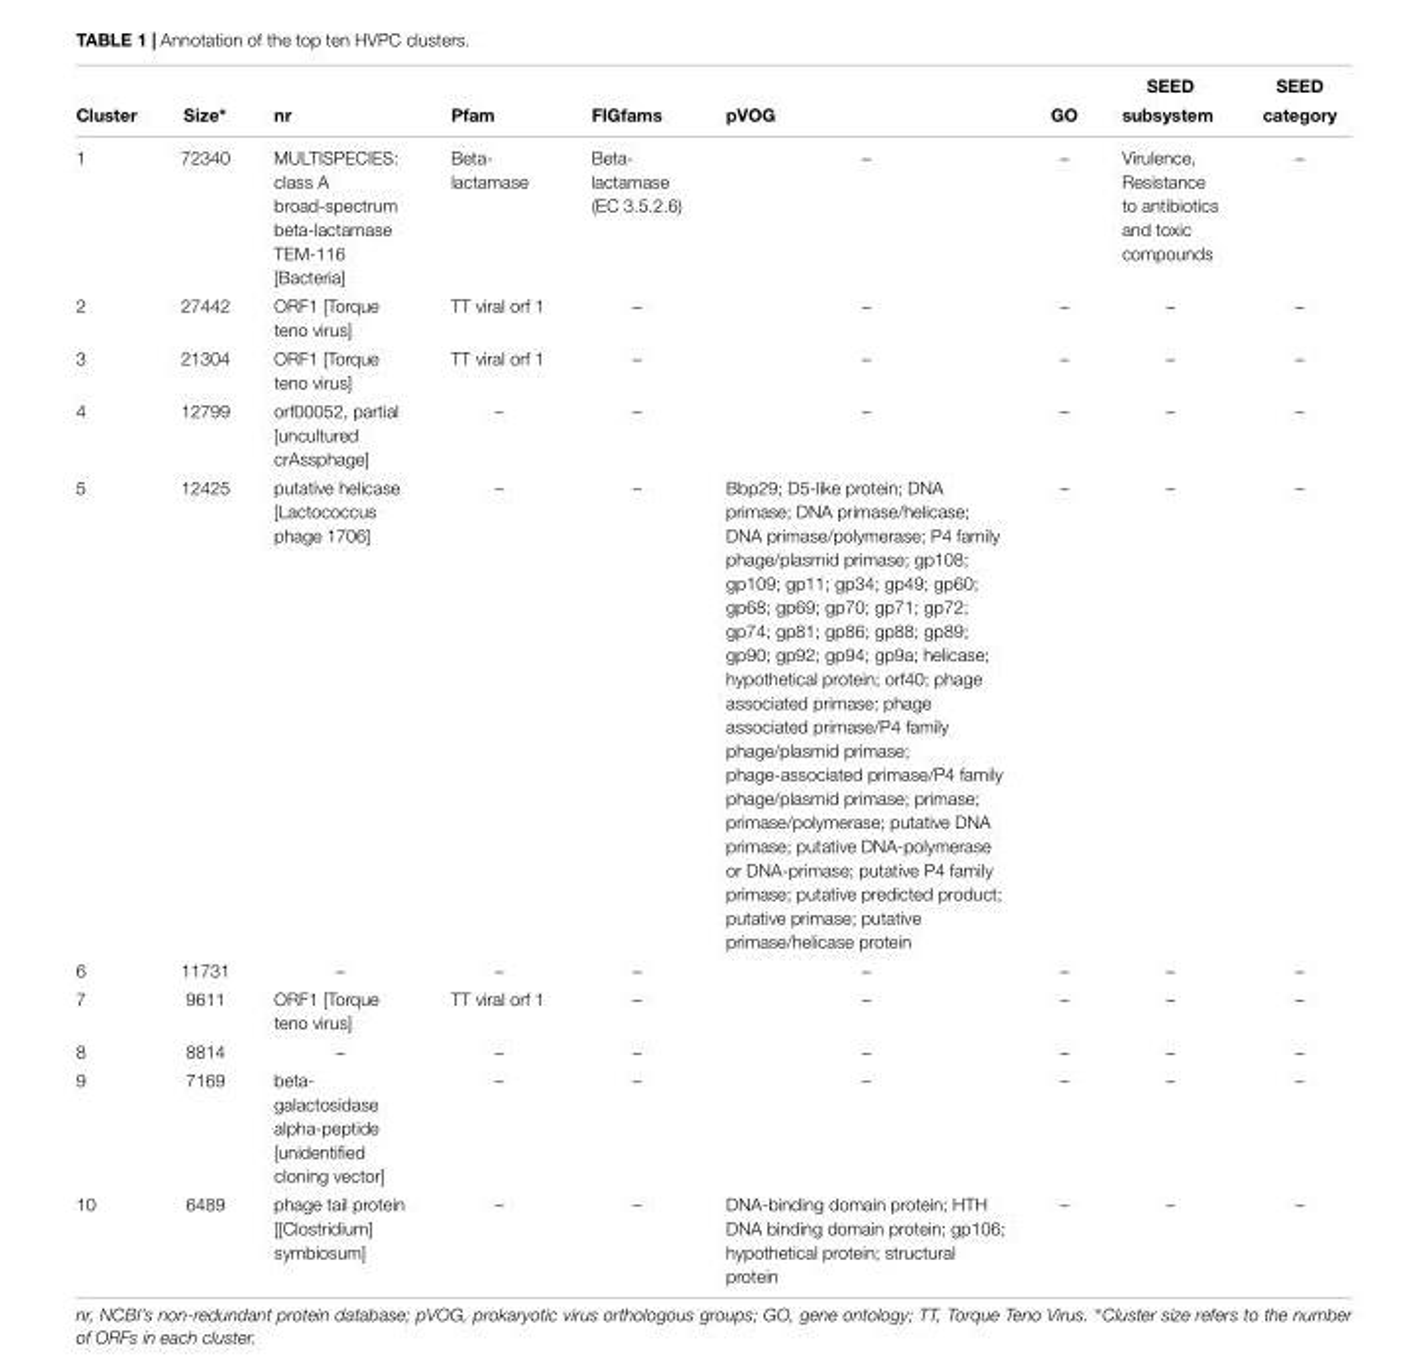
<table><thead><tr><td rowspan="2">Cluster</td><td rowspan="2">Size∗</td><td rowspan="2">nr</td><td rowspan="2">Pfam</td><td rowspan="2">FIGfams</td><td rowspan="2">pVOG</td><td rowspan="2">GO</td><td rowspan="2">SEED subsystem</td><td rowspan="2">SEED category</td></tr><tr></tr></thead><tbody><tr><td>1</td><td>72340</td><td>MULTISPECIES: class A broad-spectrum beta-lactamase TEM-116 [Bacteria]</td><td>Beta- lactamase</td><td>Beta- lactamase (EC 3.5.2.6)</td><td>–</td><td>–</td><td>Virulence, Resistance to antibiotics and toxic compounds</td><td>–</td></tr><tr><td>2</td><td>27442</td><td>ORF1 [Torque teno virus]</td><td>TT viral orf 1</td><td>–</td><td>–</td><td>–</td><td>–</td><td>–</td></tr><tr><td>3</td><td>21304</td><td>ORF1 [Torque teno virus]</td><td>TT viral orf 1</td><td>–</td><td>–</td><td>–</td><td>–</td><td>–</td></tr><tr><td>4</td><td>12799</td><td>orf00052, partial [uncultured crAssphage]</td><td>–</td><td>–</td><td>–</td><td>–</td><td>–</td><td>–</td></tr><tr><td>5</td><td>12425</td><td>putative helicase [Lactococcus phage 1706]</td><td>–</td><td>–</td><td>Bbp29; D5-like protein; DNA primase; DNA primase/helicase; DNA primase/polymerase; P4 family phage/plasmid primase; gp108; gp109; gp11; gp34; gp49; gp60; gp68; gp69; gp70; gp71; gp72; gp74; gp81; gp86; gp88; gp89; gp90; gp92; gp94; gp9a; helicase; hypothetical protein; orf40; phage associated primase; phage associated primase/P4 family phage/plasmid primase; phage-associated primase/P4 family phage/plasmid primase; primase; primase/polymerase; putative DNA primase; putative DNA-polymerase or DNA-primase; putative P4 family primase; putative predicted product; putative primase; putative primase/helicase protein</td><td>–</td><td>–</td><td>–</td></tr><tr><td>6</td><td>11731</td><td>–</td><td>–</td><td>–</td><td>–</td><td>–</td><td>–</td><td>–</td></tr><tr><td>7</td><td>9611</td><td>ORF1 [Torque teno virus]</td><td>TT viral orf 1</td><td>–</td><td>–</td><td>–</td><td>–</td><td>–</td></tr><tr><td>8</td><td>8814</td><td>–</td><td>–</td><td>–</td><td>–</td><td>–</td><td>–</td><td>–</td></tr><tr><td>9</td><td>7169</td><td>beta- galactosidase alpha-peptide [unidentified cloning vector]</td><td>–</td><td>–</td><td>–</td><td>–</td><td>–</td><td>–</td></tr><tr><td>10</td><td>6489</td><td>phage tail protein [[Clostridium] symbiosum]</td><td>–</td><td>–</td><td>DNA-binding domain protein; HTH DNA binding domain protein; gp106; hypothetical protein; structural protein</td><td>–</td><td>–</td><td>–</td></tr></tbody></table>